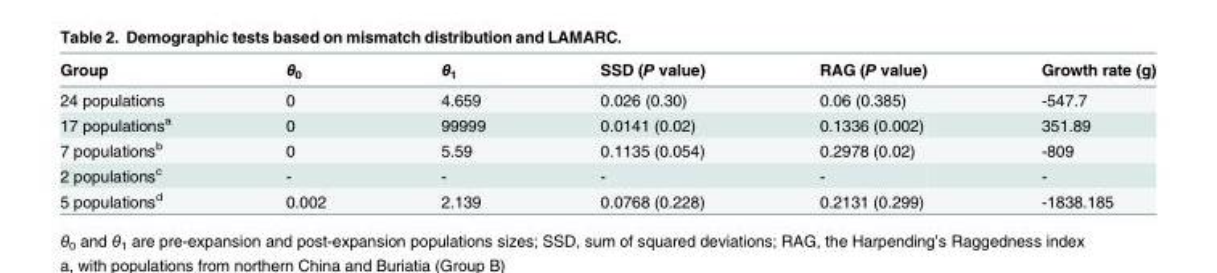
<table><thead><tr><td>Group</td><td>θ<sub>0</sub></td><td>θ<sub>1</sub></td><td>SSD (P value)</td><td>RAG (P value)</td><td>Growth rate (g)</td></tr></thead><tbody><tr><td>24 populations</td><td>0</td><td>4.659</td><td>0.026 (0.30)</td><td>0.06 (0.385)</td><td>-547.7</td></tr><tr><td>17 populations<sup>a</sup></td><td>0</td><td>99999</td><td>0.0141 (0.02)</td><td>0.1336 (0.002)</td><td>351.89</td></tr><tr><td>7 populations<sup>b</sup></td><td>0</td><td>5.59</td><td>0.1135 (0.054)</td><td>0.2978 (0.02)</td><td>-809</td></tr><tr><td>2 populations<sup>c</sup></td><td>-</td><td>-</td><td>-</td><td>-</td><td>-</td></tr><tr><td>5 populations<sup>d</sup></td><td>0.002</td><td>2.139</td><td>0.0768 (0.228)</td><td>0.2131 (0.299)</td><td>-1838.185</td></tr></tbody></table>